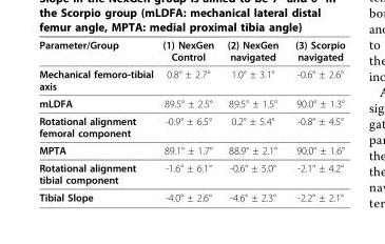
<table><thead><tr><td>Parameter/Group</td><td>(1) NexGen Control</td><td>(2) NexGen navigated</td><td>(3) Scorpio navigated</td></tr></thead><tbody><tr><td>Mechanical femoro-tibial axis</td><td>0.8° ± 2.7°</td><td>1.0° ± 3.1°</td><td>-0.6° ± 2.6°</td></tr><tr><td>mLDFA</td><td>89.5° ± 2.5°</td><td>89.5° ± 1.5°</td><td>90.0° ± 1.3°</td></tr><tr><td>Rotational alignment femoral component</td><td>-0.9° ± 6.5°</td><td>0.2° ± 5.4°</td><td>-0.8° ± 4.5°</td></tr><tr><td>MPTA</td><td>89.1° ± 1.7°</td><td>88.9° ± 2.1°</td><td>90.0° ± 1.6°</td></tr><tr><td>Rotational alignment tibial component</td><td>-1.6° ± 6.1°</td><td>-0.6° ± 5.0°</td><td>-2.1° ± 4.2°</td></tr><tr><td>Tibial Slope</td><td>-4.0° ± 2.6°</td><td>-4.6° ± 2.3°</td><td>-2.2° ± 2.1°</td></tr></tbody></table>